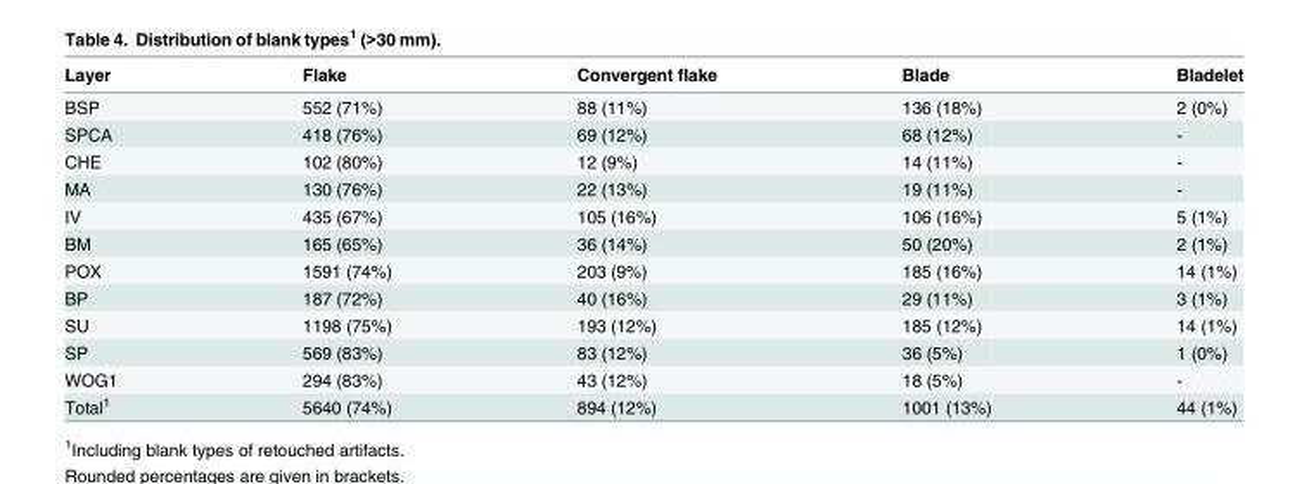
<table><thead><tr><td>Layer</td><td>Flake</td><td>Convergent flake</td><td>Blade</td><td>Bladelet</td></tr></thead><tbody><tr><td>BSP</td><td>552 (71%)</td><td>88 (11%)</td><td>136 (18%)</td><td>2 (0%)</td></tr><tr><td>SPCA</td><td>418 (76%)</td><td>69 (12%)</td><td>68 (12%)</td><td>-</td></tr><tr><td>CHE</td><td>102 (80%)</td><td>12 (9%)</td><td>14 (11%)</td><td>-</td></tr><tr><td>MA</td><td>130 (76%)</td><td>22 (13%)</td><td>19 (11%)</td><td>-</td></tr><tr><td>IV</td><td>435 (67%)</td><td>105 (16%)</td><td>106 (16%)</td><td>5 (1%)</td></tr><tr><td>BM</td><td>165 (65%)</td><td>36 (14%)</td><td>50 (20%)</td><td>2 (1%)</td></tr><tr><td>POX</td><td>1591 (74%)</td><td>203 (9%)</td><td>185 (16%)</td><td>14 (1%)</td></tr><tr><td>BP</td><td>187 (72%)</td><td>40 (16%)</td><td>29 (11%)</td><td>3 (1%)</td></tr><tr><td>SU</td><td>1198 (75%)</td><td>193 (12%)</td><td>185 (12%)</td><td>14 (1%)</td></tr><tr><td>SP</td><td>569 (83%)</td><td>83 (12%)</td><td>36 (5%)</td><td>1 (0%)</td></tr><tr><td>WOG1</td><td>294 (83%)</td><td>43 (12%)</td><td>18 (5%)</td><td>-</td></tr><tr><td>Total<sup>1</sup></td><td>5640 (74%)</td><td>894 (12%)</td><td>1001 (13%)</td><td>44 (1%)</td></tr></tbody></table>